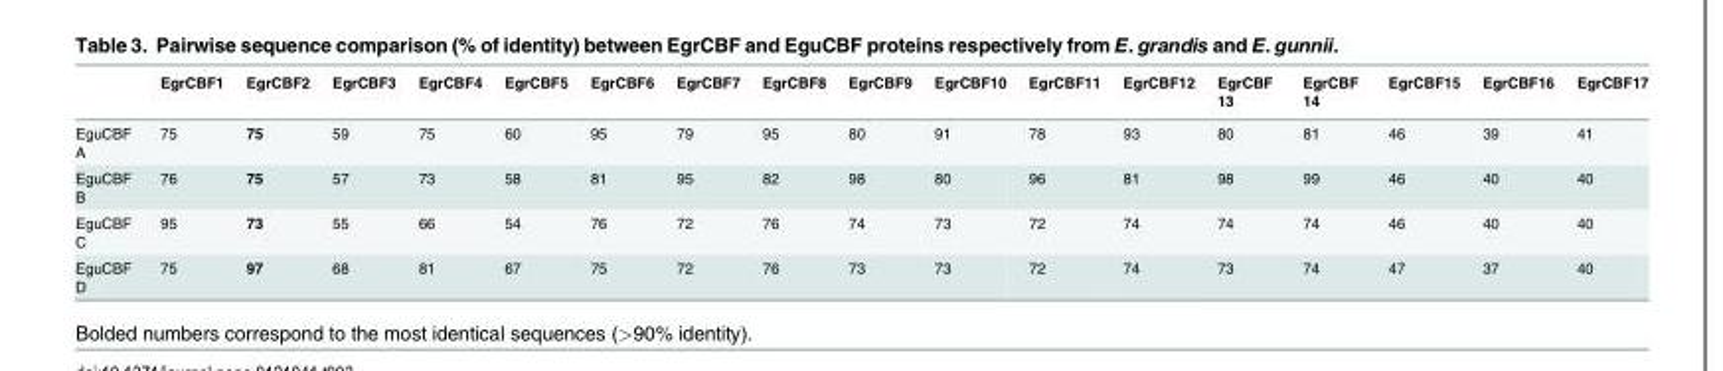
<table><thead><tr><td></td><td>EgrCBF1</td><td>EgrCBF2</td><td>EgrCBF3</td><td>EgrCBF4</td><td>EgrCBF5</td><td>EgrCBF6</td><td>EgrCBF7</td><td>EgrCBF8</td><td>EgrCBF9</td><td>EgrCBF10</td><td>EgrCBF11</td><td>EgrCBF12</td><td>EgrCBF 13</td><td>EgrCBF 14</td><td>EgrCBF15</td><td>EgrCBF16</td><td>EgrCBF17</td></tr></thead><tbody><tr><td>EguCBF A</td><td>75</td><td>75</td><td>59</td><td>75</td><td>60</td><td>95</td><td>79</td><td>95</td><td>80</td><td>91</td><td>78</td><td>93</td><td>80</td><td>81</td><td>46</td><td>39</td><td>41</td></tr><tr><td>EguCBF B</td><td>76</td><td>75</td><td>57</td><td>73</td><td>58</td><td>81</td><td>95</td><td>82</td><td>98</td><td>80</td><td>96</td><td>81</td><td>98</td><td>99</td><td>46</td><td>40</td><td>40</td></tr><tr><td>EguCBF C</td><td>95</td><td>73</td><td>55</td><td>66</td><td>54</td><td>76</td><td>72</td><td>76</td><td>74</td><td>73</td><td>72</td><td>74</td><td>74</td><td>74</td><td>46</td><td>40</td><td>40</td></tr><tr><td>EguCBF D</td><td>75</td><td>97</td><td>68</td><td>81</td><td>67</td><td>75</td><td>72</td><td>76</td><td>73</td><td>73</td><td>72</td><td>74</td><td>73</td><td>74</td><td>47</td><td>37</td><td>40</td></tr></tbody></table>